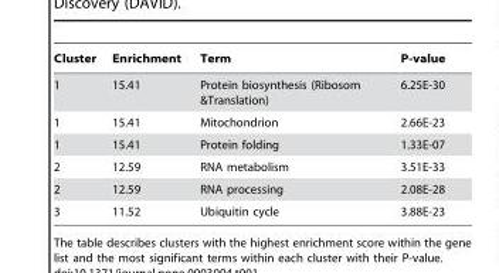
<table><thead><tr><td>Cluster</td><td>Enrichment</td><td>Term</td><td>P-value</td></tr></thead><tbody><tr><td>1</td><td>15.41</td><td>Protein biosynthesis (Ribosom &amp;Translation)</td><td>6.25E-30</td></tr><tr><td>1</td><td>15.41</td><td>Mitochondrion</td><td>2.66E-23</td></tr><tr><td>1</td><td>15.41</td><td>Protein folding</td><td>1.33E-07</td></tr><tr><td>2</td><td>12.59</td><td>RNA metabolism</td><td>3.51E-33</td></tr><tr><td>2</td><td>12.59</td><td>RNA processing</td><td>2.08E-28</td></tr><tr><td>3</td><td>11.52</td><td>Ubiquitin cycle</td><td>3.88E-23</td></tr></tbody></table>